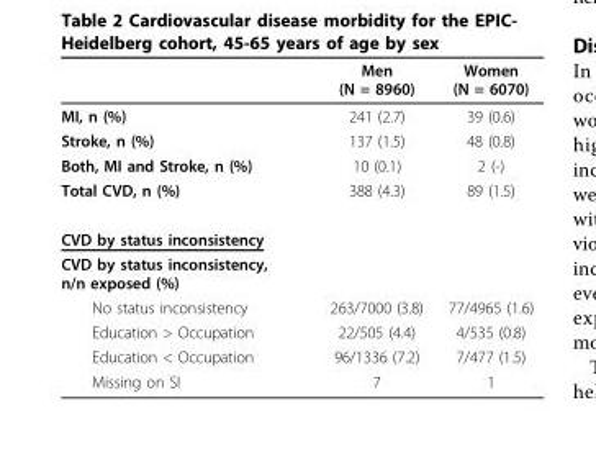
<table><thead><tr><td></td><td>Men (N = 8960)</td><td>Women (N = 6070)</td></tr></thead><tbody><tr><td>MI, n (%)</td><td>241 (2.7)</td><td>39 (0.6)</td></tr><tr><td>Stroke, n (%)</td><td>137 (1.5)</td><td>48 (0.8)</td></tr><tr><td>Both, MI and Stroke, n (%)</td><td>10 (0.1)</td><td>2 (-)</td></tr><tr><td>Total CVD, n (%)</td><td>388 (4.3)</td><td>89 (1.5)</td></tr><tr><td colspan="3">CVD by status inconsistency</td></tr><tr><td colspan="3">CVD by status inconsistency, n/n exposed (%)</td></tr><tr><td>No status inconsistency</td><td>263/7000 (3.8)</td><td>77/4965 (1.6)</td></tr><tr><td>Education &gt; Occupation</td><td>22/505 (4.4)</td><td>4/535 (0.8)</td></tr><tr><td>Education &lt; Occupation</td><td>96/1336 (7.2)</td><td>7/477 (1.5)</td></tr><tr><td>Missing on SI</td><td>7</td><td>1</td></tr></tbody></table>